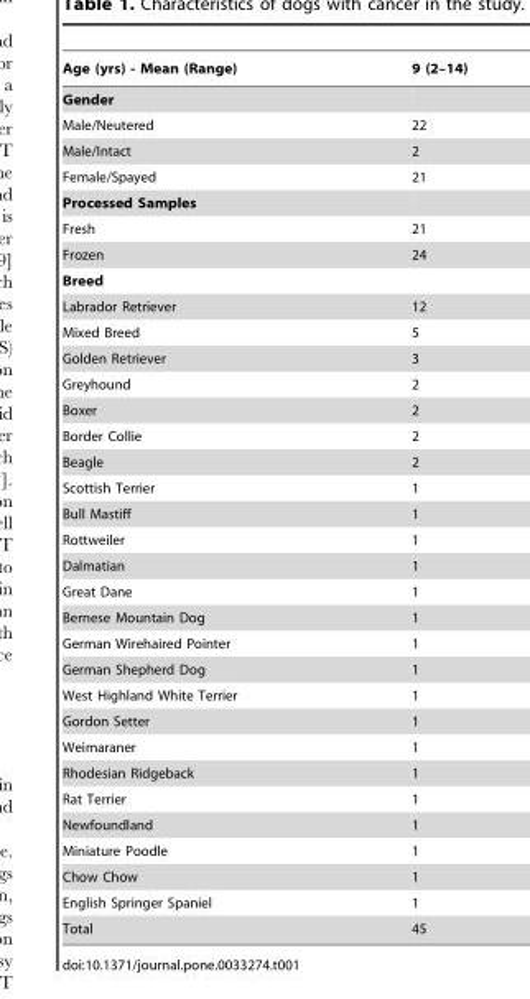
<table><thead><tr><td>Age (yrs) - Mean (Range)</td><td>9 (2–14)</td></tr></thead><tbody><tr><td colspan="2">Gender</td></tr><tr><td>Male/Neutered</td><td>22</td></tr><tr><td>Male/Intact</td><td>2</td></tr><tr><td>Female/Spayed</td><td>21</td></tr><tr><td colspan="2">Processed Samples</td></tr><tr><td>Fresh</td><td>21</td></tr><tr><td>Frozen</td><td>24</td></tr><tr><td colspan="2">Breed</td></tr><tr><td>Labrador Retriever</td><td>12</td></tr><tr><td>Mixed Breed</td><td>5</td></tr><tr><td>Golden Retriever</td><td>3</td></tr><tr><td>Greyhound</td><td>2</td></tr><tr><td>Boxer</td><td>2</td></tr><tr><td>Border Collie</td><td>2</td></tr><tr><td>Beagle</td><td>2</td></tr><tr><td>Scottish Terrier</td><td>1</td></tr><tr><td>Bull Mastiff</td><td>1</td></tr><tr><td>Rottweiler</td><td>1</td></tr><tr><td>Dalmatian</td><td>1</td></tr><tr><td>Great Dane</td><td>1</td></tr><tr><td>Bernese Mountain Dog</td><td>1</td></tr><tr><td>German Wirehaired Pointer</td><td>1</td></tr><tr><td>German Shepherd Dog</td><td>1</td></tr><tr><td>West Highland White Terrier</td><td>1</td></tr><tr><td>Gordon Setter</td><td>1</td></tr><tr><td>Weimaraner</td><td>1</td></tr><tr><td>Rhodesian Ridgeback</td><td>1</td></tr><tr><td>Rat Terrier</td><td>1</td></tr><tr><td>Newfoundland</td><td>1</td></tr><tr><td>Miniature Poodle</td><td>1</td></tr><tr><td>Chow Chow</td><td>1</td></tr><tr><td>English Springer Spaniel</td><td>1</td></tr><tr><td>Total</td><td>45</td></tr></tbody></table>